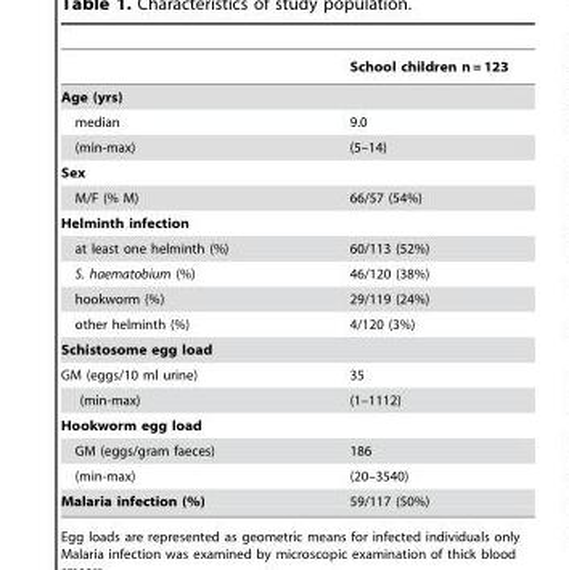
<table><thead><tr><td></td><td>School children n = 123</td></tr></thead><tbody><tr><td colspan="2">Age (yrs)</td></tr><tr><td>median</td><td>9.0</td></tr><tr><td>(min-max)</td><td>(5–14)</td></tr><tr><td colspan="2">Sex</td></tr><tr><td>M/F (% M)</td><td>66/57 (54%)</td></tr><tr><td colspan="2">Helminth infection</td></tr><tr><td>at least one helminth (%)</td><td>60/113 (52%)</td></tr><tr><td>S. haematobium (%)</td><td>46/120 (38%)</td></tr><tr><td>hookworm (%)</td><td>29/119 (24%)</td></tr><tr><td>other helminth (%)</td><td>4/120 (3%)</td></tr><tr><td colspan="2">Schistosome egg load</td></tr><tr><td>GM (eggs/10 ml urine)</td><td>35</td></tr><tr><td>(min-max)</td><td>(1–1112)</td></tr><tr><td colspan="2">Hookworm egg load</td></tr><tr><td>GM (eggs/gram faeces)</td><td>186</td></tr><tr><td>(min-max)</td><td>(20–3540)</td></tr><tr><td>Malaria infection (%)</td><td>59/117 (50%)</td></tr></tbody></table>